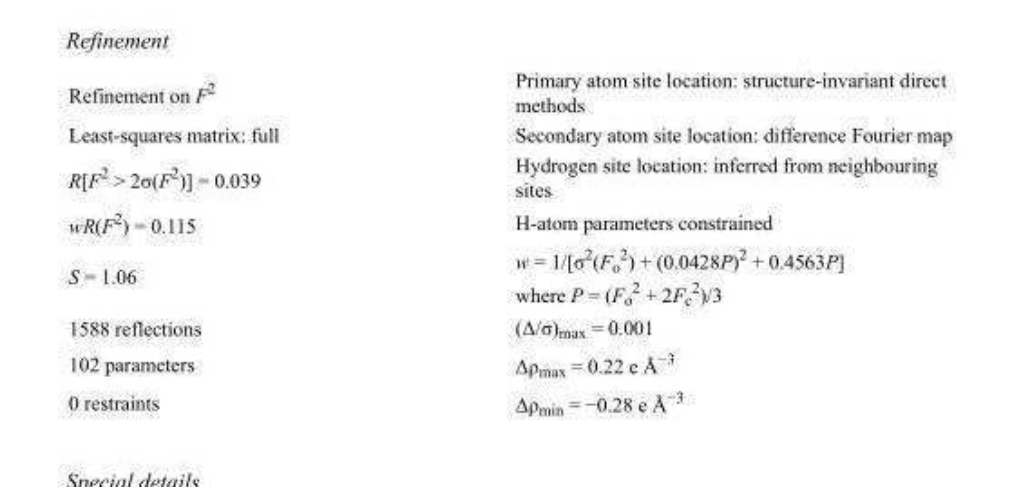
<table><tbody><tr><td>Refinement on F<sup>2</sup></td><td>Primary atom site location: structure-invariant direct methods</td></tr><tr><td>Least-squares matrix: full</td><td>Secondary atom site location: difference Fourier map</td></tr><tr><td>R[F<sup>2</sup> &gt; 2σ(F<sup>2</sup>)] = 0.039</td><td>Hydrogen site location: inferred from neighbouring sites</td></tr><tr><td>wR(F<sup>2</sup>) = 0.115</td><td>H-atom parameters constrained</td></tr><tr><td>S = 1.06</td><td>w = 1/[σ<sup>2</sup>(F<sub>o</sub> <sup>2</sup>) + (0.0428P)<sup>2</sup> + 0.4563P] where P = (F<sub>o</sub> <sup>2</sup> + 2F<sub>c</sub> <sup>2</sup>)/3</td></tr><tr><td>1588 reflections</td><td>(Δ/σ)<sub>max</sub> = 0.001</td></tr><tr><td>102 parameters</td><td>Δρ<sub>max</sub> = 0.22 e Å<sup>−3</sup></td></tr><tr><td>0 restraints</td><td>Δρ<sub>min</sub> = −0.28 e Å<sup>−3</sup></td></tr></tbody></table>